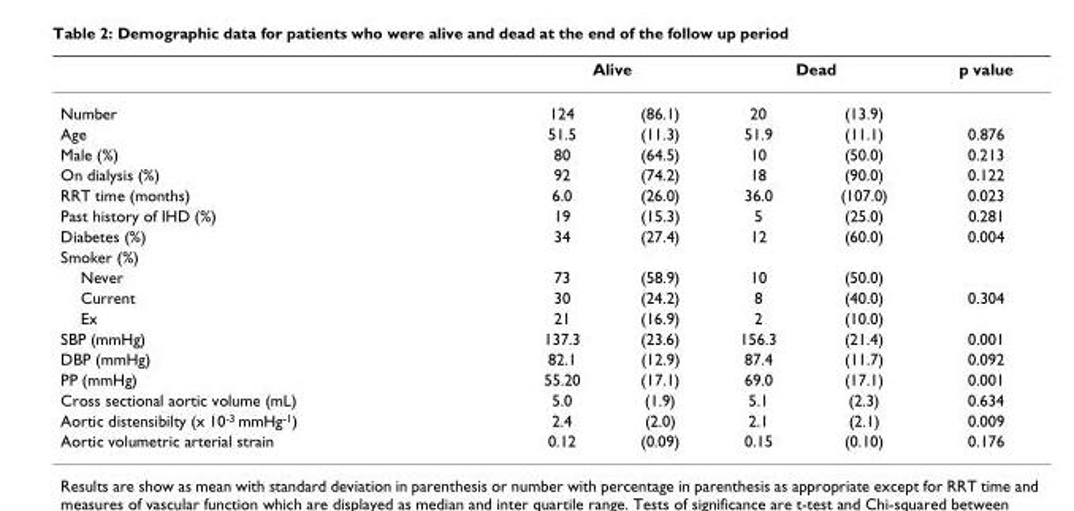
<table><thead><tr><td rowspan="2">Number</td><td colspan="2">Alive</td><td colspan="2">Dead</td><td rowspan="2">p value</td></tr><tr><td>124</td><td>(86.1)</td><td>20</td><td>(13.9)</td></tr></thead><tbody><tr><td>Age</td><td>51.5</td><td>(11.3)</td><td>51.9</td><td>(11.1)</td><td>0.876</td></tr><tr><td>Male (%)</td><td>80</td><td>(64.5)</td><td>10</td><td>(50.0)</td><td>0.213</td></tr><tr><td>On dialysis (%)</td><td>92</td><td>(74.2)</td><td>18</td><td>(90.0)</td><td>0.122</td></tr><tr><td>RRT time (months)</td><td>6.0</td><td>(26.0)</td><td>36.0</td><td>(107.0)</td><td>0.023</td></tr><tr><td>Past history of IHD (%)</td><td>19</td><td>(15.3)</td><td>5</td><td>(25.0)</td><td>0.281</td></tr><tr><td>Diabetes (%)</td><td>34</td><td>(27.4)</td><td>12</td><td>(60.0)</td><td>0.004</td></tr><tr><td colspan="6">Smoker (%)</td></tr><tr><td>Never</td><td>73</td><td>(58.9)</td><td>10</td><td>(50.0)</td><td></td></tr><tr><td>Current</td><td>30</td><td>(24.2)</td><td>8</td><td>(40.0)</td><td>0.304</td></tr><tr><td>Ex</td><td>21</td><td>(16.9)</td><td>2</td><td>(10.0)</td><td></td></tr><tr><td>SBP (mmHg)</td><td>137.3</td><td>(23.6)</td><td>156.3</td><td>(21.4)</td><td>0.001</td></tr><tr><td>DBP (mmHg)</td><td>82.1</td><td>(12.9)</td><td>87.4</td><td>(11.7)</td><td>0.092</td></tr><tr><td>PP (mmHg)</td><td>55.20</td><td>(17.1)</td><td>69.0</td><td>(17.1)</td><td>0.001</td></tr><tr><td>Cross sectional aortic volume (mL)</td><td>5.0</td><td>(1.9)</td><td>5.1</td><td>(2.3)</td><td>0.634</td></tr><tr><td>Aortic distensibilty (x 10<sup>-3</sup> mmHg<sup>-1</sup>)</td><td>2.4</td><td>(2.0)</td><td>2.1</td><td>(2.1)</td><td>0.009</td></tr><tr><td>Aortic volumetric arterial strain</td><td>0.12</td><td>(0.09)</td><td>0.15</td><td>(0.10)</td><td>0.176</td></tr></tbody></table>